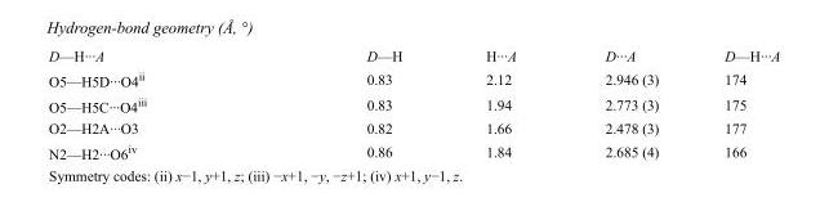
<table><tbody><tr><td>D—H···A</td><td>D—H</td><td>H···A</td><td>D···A</td><td>D—H···A</td></tr><tr><td>O5—H5D···O4<sup>ii</sup></td><td>0.83</td><td>2.12</td><td>2.946 (3)</td><td>174</td></tr><tr><td>O5—H5C···O4<sup>iii</sup></td><td>0.83</td><td>1.94</td><td>2.773 (3)</td><td>175</td></tr><tr><td>O2—H2A···O3</td><td>0.82</td><td>1.66</td><td>2.478 (3)</td><td>177</td></tr><tr><td>N2—H2···O6<sup>iv</sup></td><td>0.86</td><td>1.84</td><td>2.685 (4)</td><td>166</td></tr></tbody></table>